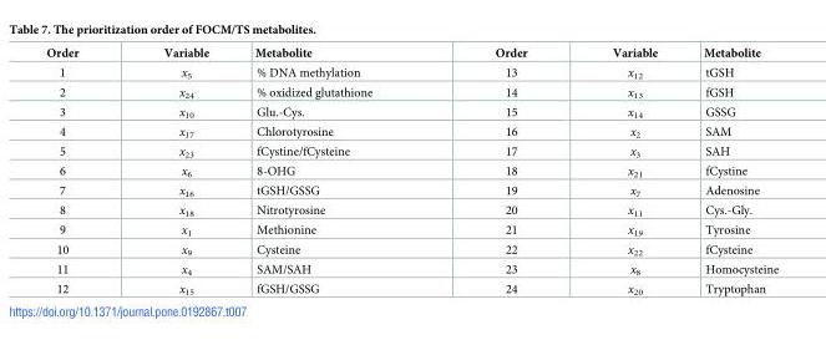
<table><thead><tr><td>Order</td><td>Variable</td><td>Metabolite</td><td>Order</td><td>Variable</td><td>Metabolite</td></tr></thead><tbody><tr><td>1</td><td>x<sub>5</sub></td><td>% DNA methylation</td><td>13</td><td>x<sub>12</sub></td><td>tGSH</td></tr><tr><td>2</td><td>x<sub>24</sub></td><td>% oxidized glutathione</td><td>14</td><td>x<sub>13</sub></td><td>fGSH</td></tr><tr><td>3</td><td>x<sub>10</sub></td><td>Glu.-Cys.</td><td>15</td><td>x<sub>14</sub></td><td>GSSG</td></tr><tr><td>4</td><td>x<sub>17</sub></td><td>Chlorotyrosine</td><td>16</td><td>x<sub>2</sub></td><td>SAM</td></tr><tr><td>5</td><td>x<sub>23</sub></td><td>fCystine/fCysteine</td><td>17</td><td>x<sub>3</sub></td><td>SAH</td></tr><tr><td>6</td><td>x<sub>6</sub></td><td>8-OHG</td><td>18</td><td>x<sub>21</sub></td><td>fCystine</td></tr><tr><td>7</td><td>x<sub>16</sub></td><td>tGSH/GSSG</td><td>19</td><td>x<sub>7</sub></td><td>Adenosine</td></tr><tr><td>8</td><td>x<sub>18</sub></td><td>Nitrotyrosine</td><td>20</td><td>x<sub>11</sub></td><td>Cys.-Gly.</td></tr><tr><td>9</td><td>x<sub>1</sub></td><td>Methionine</td><td>21</td><td>x<sub>19</sub></td><td>Tyrosine</td></tr><tr><td>10</td><td>x<sub>9</sub></td><td>Cysteine</td><td>22</td><td>x<sub>22</sub></td><td>fCysteine</td></tr><tr><td>11</td><td>x<sub>4</sub></td><td>SAM/SAH</td><td>23</td><td>x<sub>8</sub></td><td>Homocysteine</td></tr><tr><td>12</td><td>x<sub>15</sub></td><td>fGSH/GSSG</td><td>24</td><td>x<sub>20</sub></td><td>Tryptophan</td></tr></tbody></table>